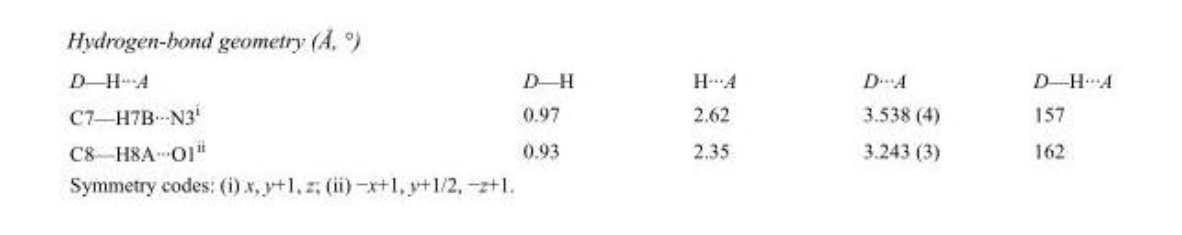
<table><tbody><tr><td>D—H···A</td><td>D—H</td><td>H···A</td><td>D···A</td><td>D—H···A</td></tr><tr><td>C7—H7B···N3<sup>i</sup></td><td>0.97</td><td>2.62</td><td>3.538 (4)</td><td>157</td></tr><tr><td>C8—H8A···O1<sup>ii</sup></td><td>0.93</td><td>2.35</td><td>3.243 (3)</td><td>162</td></tr></tbody></table>